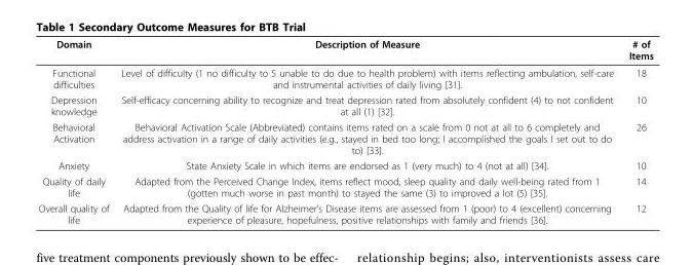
<table><thead><tr><td>Domain</td><td>Description of Measure</td><td># of Items</td></tr></thead><tbody><tr><td>Functional difficulties</td><td>Level of difficulty (1 no difficulty to 5 unable to do due to health problem) with items reflecting ambulation, self-care and instrumental activities of daily living [31].</td><td>18</td></tr><tr><td>Depression knowledge</td><td>Self-efficacy concerning ability to recognize and treat depression rated from absolutely confident (4) to not confident at all (1) [32].</td><td>10</td></tr><tr><td>Behavioral Activation</td><td>Behavioral Activation Scale (Abbreviated) contains items rated on a scale from 0 not at all to 6 completely and address activation in a range of daily activities (e.g., stayed in bed too long; I accomplished the goals I set out to do to) [33].</td><td>26</td></tr><tr><td>Anxiety</td><td>State Anxiety Scale in which items are endorsed as 1 (very much) to 4 (not at all) [34].</td><td>10</td></tr><tr><td>Quality of daily life</td><td>Adapted from the Perceived Change Index, items reflect mood, sleep quality and daily well-being rated from 1 (gotten much worse in past month) to stayed the same (3) to improved a lot (5) [35].</td><td>14</td></tr><tr><td>Overall quality of life</td><td>Adapted from the Quality of life for Alzheimer’s Disease items are assessed from 1 (poor) to 4 (excellent) concerning experience of pleasure, hopefulness, positive relationships with family and friends [36].</td><td>12</td></tr></tbody></table>